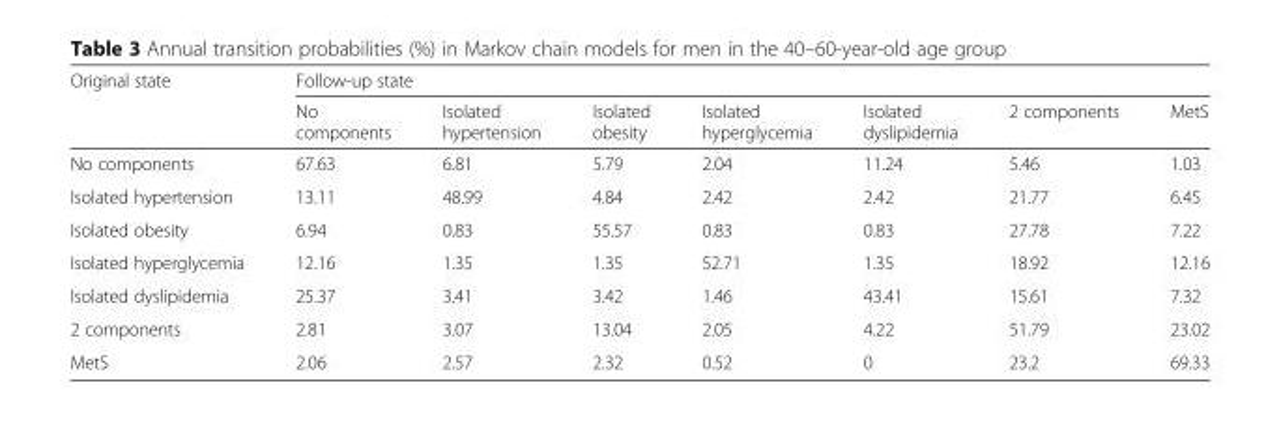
<table><thead><tr><td rowspan="2">Original state</td><td colspan="7">Follow-up state</td></tr><tr><td>No components</td><td>Isolated hypertension</td><td>Isolated obesity</td><td>Isolated hyperglycemia</td><td>Isolated dyslipidemia</td><td>2 components</td><td>MetS</td></tr></thead><tbody><tr><td>No components</td><td>67.63</td><td>6.81</td><td>5.79</td><td>2.04</td><td>11.24</td><td>5.46</td><td>1.03</td></tr><tr><td>Isolated hypertension</td><td>13.11</td><td>48.99</td><td>4.84</td><td>2.42</td><td>2.42</td><td>21.77</td><td>6.45</td></tr><tr><td>Isolated obesity</td><td>6.94</td><td>0.83</td><td>55.57</td><td>0.83</td><td>0.83</td><td>27.78</td><td>7.22</td></tr><tr><td>Isolated hyperglycemia</td><td>12.16</td><td>1.35</td><td>1.35</td><td>52.71</td><td>1.35</td><td>18.92</td><td>12.16</td></tr><tr><td>Isolated dyslipidemia</td><td>25.37</td><td>3.41</td><td>3.42</td><td>1.46</td><td>43.41</td><td>15.61</td><td>7.32</td></tr><tr><td>2 components</td><td>2.81</td><td>3.07</td><td>13.04</td><td>2.05</td><td>4.22</td><td>51.79</td><td>23.02</td></tr><tr><td>MetS</td><td>2.06</td><td>2.57</td><td>2.32</td><td>0.52</td><td>0</td><td>23.2</td><td>69.33</td></tr></tbody></table>